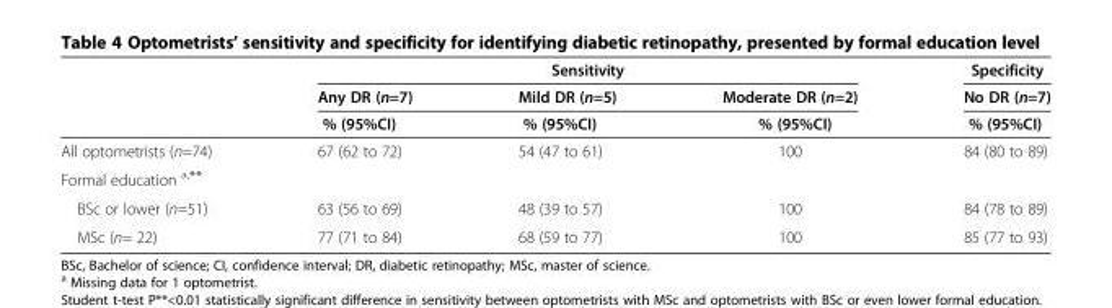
<table><thead><tr><td rowspan="2"></td><td colspan="3">Sensitivity</td><td rowspan="2">Specificity No DR (n=7)</td></tr><tr><td>Any DR (n=7)</td><td>Mild DR (n=5)</td><td>Moderate DR (n=2)</td></tr></thead><tbody><tr><td></td><td>% (95%CI)</td><td>% (95%CI)</td><td>% (95%CI)</td><td>% (95%CI)</td></tr><tr><td>All optometrists (n=74)</td><td>67 (62 to 72)</td><td>54 (47 to 61)</td><td>100</td><td>84 (80 to 89)</td></tr><tr><td colspan="5">Formal education <sup>a,**</sup></td></tr><tr><td>BSc or lower (n=51)</td><td>63 (56 to 69)</td><td>48 (39 to 57)</td><td>100</td><td>84 (78 to 89)</td></tr><tr><td>MSc (n= 22)</td><td>77 (71 to 84)</td><td>68 (59 to 77)</td><td>100</td><td>85 (77 to 93)</td></tr></tbody></table>